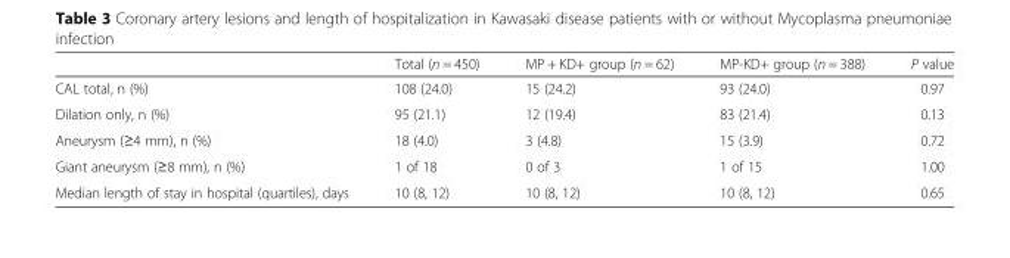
<table><thead><tr><td></td><td>Total (n = 450)</td><td>MP + KD+ group (n = 62)</td><td>MP-KD+ group (n = 388)</td><td>P value</td></tr></thead><tbody><tr><td>CAL total, n (%)</td><td>108 (24.0)</td><td>15 (24.2)</td><td>93 (24.0)</td><td>0.97</td></tr><tr><td>Dilation only, n (%)</td><td>95 (21.1)</td><td>12 (19.4)</td><td>83 (21.4)</td><td>0.13</td></tr><tr><td>Aneurysm (≥4 mm), n (%)</td><td>18 (4.0)</td><td>3 (4.8)</td><td>15 (3.9)</td><td>0.72</td></tr><tr><td>Giant aneurysm (≥8 mm), n (%)</td><td>1 of 18</td><td>0 of 3</td><td>1 of 15</td><td>1.00</td></tr><tr><td>Median length of stay in hospital (quartiles), days</td><td>10 (8, 12)</td><td>10 (8, 12)</td><td>10 (8, 12)</td><td>0.65</td></tr></tbody></table>